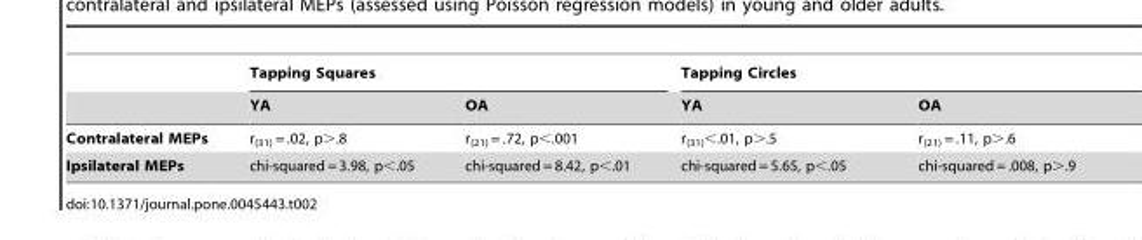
<table><thead><tr><td rowspan="2"></td><td colspan="2">Tapping Squares</td><td colspan="2">Tapping Circles</td></tr><tr><td>YA</td><td>OA</td><td>YA</td><td>OA</td></tr></thead><tbody><tr><td>Contralateral MEPs</td><td>r<sub>(31)</sub> = .02, p&gt;.8</td><td>r<sub>(21)</sub> = .72, p&lt;.001</td><td>r<sub>(31)</sub>&lt;.01, p&gt;.5</td><td>r<sub>(21)</sub> = .11, p&gt;.6</td></tr><tr><td>Ipsilateral MEPs</td><td>chi-squared = 3.98, p&lt;.05</td><td>chi-squared = 8.42, p&lt;.01</td><td>chi-squared = 5.65, p&lt;.05</td><td>chi-squared = .008, p&gt;.9</td></tr></tbody></table>